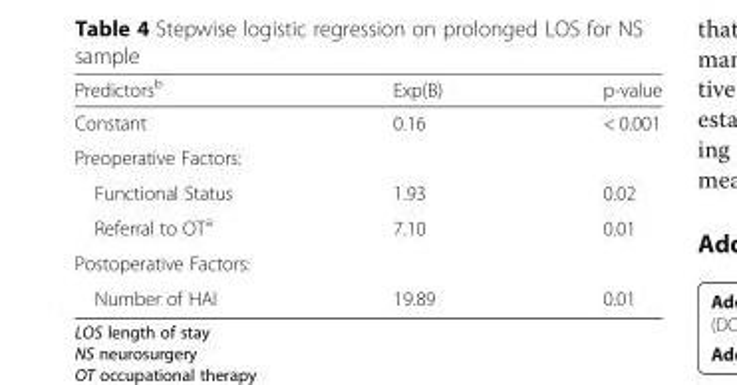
<table><thead><tr><td>Predictors<sup>b</sup></td><td>Exp(B)</td><td>p-value</td></tr></thead><tbody><tr><td>Constant</td><td>0.16</td><td>&lt; 0.001</td></tr><tr><td colspan="3">Preoperative Factors:</td></tr><tr><td>Functional Status</td><td>1.93</td><td>0.02</td></tr><tr><td>Referral to OT<sup>a</sup></td><td>7.10</td><td>0.01</td></tr><tr><td colspan="3">Postoperative Factors:</td></tr><tr><td>Number of HAI</td><td>19.89</td><td>0.01</td></tr></tbody></table>